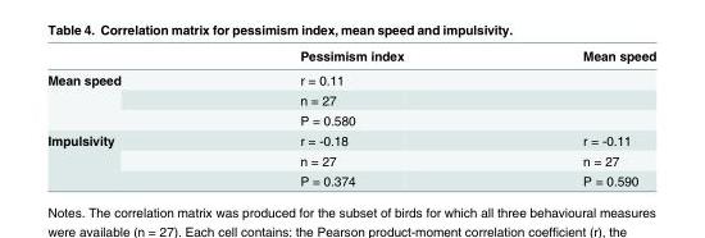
<table><thead><tr><td></td><td>Pessimism index</td><td>Mean speed</td></tr></thead><tbody><tr><td rowspan="3">Mean speed</td><td>r = 0.11</td><td></td></tr><tr><td>n = 27</td><td></td></tr><tr><td>P = 0.580</td><td></td></tr><tr><td rowspan="3">Impulsivity</td><td>r = -0.18</td><td>r = -0.11</td></tr><tr><td>n = 27</td><td>n = 27</td></tr><tr><td>P = 0.374</td><td>P = 0.590</td></tr></tbody></table>